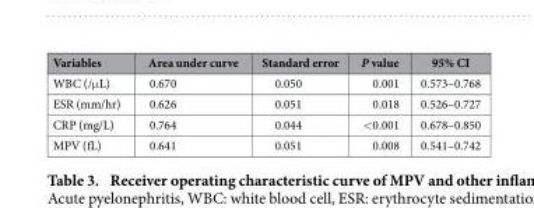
<table><thead><tr><td>Variables</td><td>Area under curve</td><td>Standard error</td><td>P value</td><td>95% CI</td></tr></thead><tbody><tr><td>WBC (/μ L)</td><td>0.670</td><td>0.050</td><td>0.001</td><td>0.573–0.768</td></tr><tr><td>ESR (mm/hr)</td><td>0.626</td><td>0.051</td><td>0.018</td><td>0.526–0.727</td></tr><tr><td>CRP (mg/L)</td><td>0.764</td><td>0.044</td><td>&lt;0.001</td><td>0.678–0.850</td></tr><tr><td>MPV (fL)</td><td>0.641</td><td>0.051</td><td>0.008</td><td>0.541–0.742</td></tr></tbody></table>